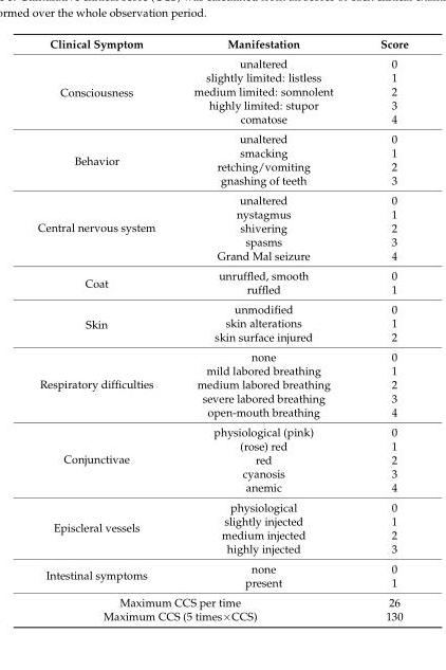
<table><thead><tr><td>Clinical Symptom</td><td>Manifestation</td><td>Score</td></tr></thead><tbody><tr><td rowspan="5">Consciousness</td><td>unaltered</td><td>0</td></tr><tr><td>slightly limited: listless</td><td>1</td></tr><tr><td>medium limited: somnolent</td><td>2</td></tr><tr><td>highly limited: stupor</td><td>3</td></tr><tr><td>comatose</td><td>4</td></tr><tr><td rowspan="4">Behavior</td><td>unaltered</td><td>0</td></tr><tr><td>smacking</td><td>1</td></tr><tr><td>retching/vomiting</td><td>2</td></tr><tr><td>gnashing of teeth</td><td>3</td></tr><tr><td rowspan="5">Central nervous system</td><td>unaltered</td><td>0</td></tr><tr><td>nystagmus</td><td>1</td></tr><tr><td>shivering</td><td>2</td></tr><tr><td>spasms</td><td>3</td></tr><tr><td>Grand Mal seizure</td><td>4</td></tr><tr><td rowspan="2">Coat</td><td>unruffled, smooth</td><td>0</td></tr><tr><td>ruffled</td><td>1</td></tr><tr><td rowspan="3">Skin</td><td>unmodified</td><td>0</td></tr><tr><td>skin alterations</td><td>1</td></tr><tr><td>skin surface injured</td><td>2</td></tr><tr><td rowspan="5">Respiratory difficulties</td><td>none</td><td>0</td></tr><tr><td>mild labored breathing</td><td>1</td></tr><tr><td>medium labored breathing</td><td>2</td></tr><tr><td>severe labored breathing</td><td>3</td></tr><tr><td>open-mouth breathing</td><td>4</td></tr><tr><td rowspan="5">Conjunctivae</td><td>physiological (pink)</td><td>0</td></tr><tr><td>(rose) red</td><td>1</td></tr><tr><td>red</td><td>2</td></tr><tr><td>cyanosis</td><td>3</td></tr><tr><td>anemic</td><td>4</td></tr><tr><td rowspan="4">Episcleral vessels</td><td>physiological</td><td>0</td></tr><tr><td>slightly injected</td><td>1</td></tr><tr><td>medium injected</td><td>2</td></tr><tr><td>highly injected</td><td>3</td></tr><tr><td rowspan="2">Intestinal symptoms</td><td>none</td><td>0</td></tr><tr><td>present</td><td>1</td></tr><tr><td colspan="2">Maximum CCS per time</td><td>26</td></tr><tr><td colspan="2">Maximum CCS (5 times×CCS)</td><td>130</td></tr></tbody></table>